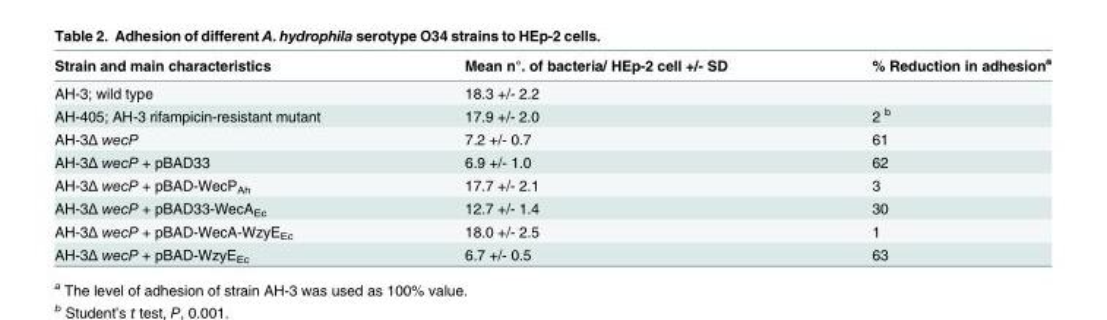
<table><thead><tr><td>Strain and main characteristics</td><td>Mean n°. of bacteria/ HEp-2 cell +/- SD</td><td>% Reduction in adhesion<sup>a</sup></td></tr></thead><tbody><tr><td>AH-3; wild type</td><td>18.3 +/- 2.2</td><td></td></tr><tr><td>AH-405; AH-3 rifampicin-resistant mutant</td><td>17.9 +/- 2.0</td><td>2 <sup>b</sup></td></tr><tr><td>AH-3Δ wecP</td><td>7.2 +/- 0.7</td><td>61</td></tr><tr><td>AH-3Δ wecP + pBAD33</td><td>6.9 +/- 1.0</td><td>62</td></tr><tr><td>AH-3Δ wecP + pBAD-WecP<sub>Ah</sub></td><td>17.7 +/- 2.1</td><td>3</td></tr><tr><td>AH-3Δ wecP + pBAD33-WecA<sub>Ec</sub></td><td>12.7 +/- 1.4</td><td>30</td></tr><tr><td>AH-3Δ wecP + pBAD-WecA-WzyE<sub>Ec</sub></td><td>18.0 +/- 2.5</td><td>1</td></tr><tr><td>AH-3Δ wecP + pBAD-WzyE<sub>Ec</sub></td><td>6.7 +/- 0.5</td><td>63</td></tr></tbody></table>